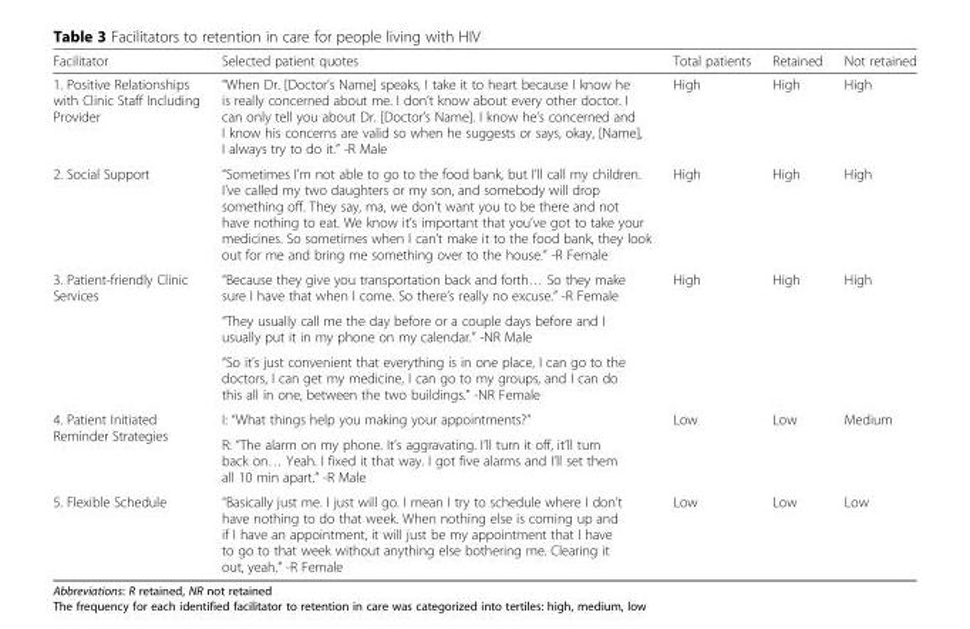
<table><thead><tr><td>Facilitator</td><td>Selected patient quotes</td><td>Total patients</td><td>Retained</td><td>Not retained</td></tr></thead><tbody><tr><td>1. Positive Relationships with Clinic Staff Including Provider</td><td>“When Dr. [Doctor’s Name] speaks, I take it to heart because I know he is really concerned about me. I don’t know about every other doctor. I can only tell you about Dr. [Doctor’s Name]. I know he’s concerned and I know his concerns are valid so when he suggests or says, okay, [Name], I always try to do it.” -R Male</td><td>High</td><td>High</td><td>High</td></tr><tr><td>2. Social Support</td><td>“Sometimes I’m not able to go to the food bank, but I’ll call my children. I’ve called my two daughters or my son, and somebody will drop something off. They say, ma, we don’t want you to be there and not have nothing to eat. We know it’s important that you’ve got to take your medicines. So sometimes when I can’t make it to the food bank, they look out for me and bring me something over to the house.” -R Female</td><td>High</td><td>High</td><td>High</td></tr><tr><td rowspan="3">3. Patient-friendly Clinic Services</td><td>“Because they give you transportation back and forth… So they make sure I have that when I come. So there’s really no excuse.” -R Female</td><td rowspan="3">High</td><td rowspan="3">High</td><td rowspan="3">High</td></tr><tr><td>“They usually call me the day before or a couple days before and I usually put it in my phone on my calendar.” -NR Male</td></tr><tr><td>“So it’s just convenient that everything is in one place, I can go to the doctors, I can get my medicine, I can go to my groups, and I can do this all in one, between the two buildings.” -NR Female</td></tr><tr><td rowspan="2">4. Patient Initiated Reminder Strategies</td><td>I: “What things help you making your appointments?”</td><td rowspan="2">Low</td><td rowspan="2">Low</td><td rowspan="2">Medium</td></tr><tr><td>R: “The alarm on my phone. It’s aggravating. I’ll turn it off, it’ll turn back on… Yeah. I fixed it that way. I got five alarms and I’ll set them all 10 min apart.” -R Male</td></tr><tr><td>5. Flexible Schedule</td><td>“Basically just me. I just will go. I mean I try to schedule where I don’t have nothing to do that week. When nothing else is coming up and if I have an appointment, it will just be my appointment that I have to go to that week without anything else bothering me. Clearing it out, yeah.” -R Female</td><td>Low</td><td>Low</td><td>Low</td></tr></tbody></table>